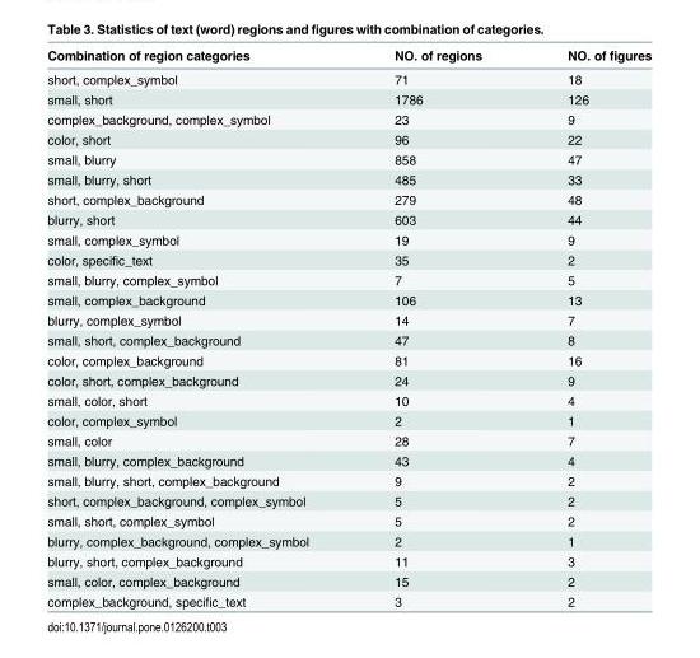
<table><thead><tr><td>Combination of region categories</td><td>NO. of regions</td><td>NO. of figures</td></tr></thead><tbody><tr><td>short, complex_symbol</td><td>71</td><td>18</td></tr><tr><td>small, short</td><td>1786</td><td>126</td></tr><tr><td>complex_background, complex_symbol</td><td>23</td><td>9</td></tr><tr><td>color, short</td><td>96</td><td>22</td></tr><tr><td>small, blurry</td><td>858</td><td>47</td></tr><tr><td>small, blurry, short</td><td>485</td><td>33</td></tr><tr><td>short, complex_background</td><td>279</td><td>48</td></tr><tr><td>blurry, short</td><td>603</td><td>44</td></tr><tr><td>small, complex_symbol</td><td>19</td><td>9</td></tr><tr><td>color, specific_text</td><td>35</td><td>2</td></tr><tr><td>small, blurry, complex_symbol</td><td>7</td><td>5</td></tr><tr><td>small, complex_background</td><td>106</td><td>13</td></tr><tr><td>blurry, complex_symbol</td><td>14</td><td>7</td></tr><tr><td>small, short, complex_background</td><td>47</td><td>8</td></tr><tr><td>color, complex_background</td><td>81</td><td>16</td></tr><tr><td>color, short, complex_background</td><td>24</td><td>9</td></tr><tr><td>small, color, short</td><td>10</td><td>4</td></tr><tr><td>color, complex_symbol</td><td>2</td><td>1</td></tr><tr><td>small, color</td><td>28</td><td>7</td></tr><tr><td>small, blurry, complex_background</td><td>43</td><td>4</td></tr><tr><td>small, blurry, short, complex_background</td><td>9</td><td>2</td></tr><tr><td>short, complex_background, complex_symbol</td><td>5</td><td>2</td></tr><tr><td>small, short, complex_symbol</td><td>5</td><td>2</td></tr><tr><td>blurry, complex_background, complex_symbol</td><td>2</td><td>1</td></tr><tr><td>blurry, short, complex_background</td><td>11</td><td>3</td></tr><tr><td>small, color, complex_background</td><td>15</td><td>2</td></tr><tr><td>complex_background, specific_text</td><td>3</td><td>2</td></tr></tbody></table>